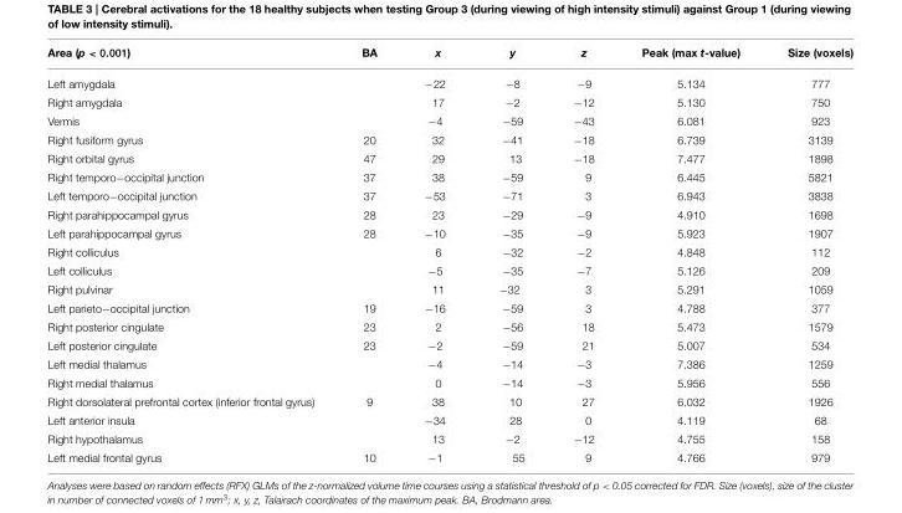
<table><thead><tr><td>Area (p &lt; 0.001)</td><td>BA</td><td>x</td><td>y</td><td>z</td><td>Peak (max t-value)</td><td>Size (voxels)</td></tr></thead><tbody><tr><td>Left amygdala</td><td></td><td>−22</td><td>−8</td><td>−9</td><td>5.134</td><td>777</td></tr><tr><td>Right amygdala</td><td></td><td>17</td><td>−2</td><td>−12</td><td>5.130</td><td>750</td></tr><tr><td>Vermis</td><td></td><td>−4</td><td>−59</td><td>−43</td><td>6.081</td><td>923</td></tr><tr><td>Right fusiform gyrus</td><td>20</td><td>32</td><td>−41</td><td>−18</td><td>6.739</td><td>3139</td></tr><tr><td>Right orbital gyrus</td><td>47</td><td>29</td><td>13</td><td>−18</td><td>7.477</td><td>1898</td></tr><tr><td>Right temporo−occipital junction</td><td>37</td><td>38</td><td>−59</td><td>9</td><td>6.445</td><td>5821</td></tr><tr><td>Left temporo−occipital junction</td><td>37</td><td>−53</td><td>−71</td><td>3</td><td>6.943</td><td>3838</td></tr><tr><td>Right parahippocampal gyrus</td><td>28</td><td>23</td><td>−29</td><td>−9</td><td>4.910</td><td>1698</td></tr><tr><td>Left parahippocampal gyrus</td><td>28</td><td>−10</td><td>−35</td><td>−9</td><td>5.923</td><td>1907</td></tr><tr><td>Right colliculus</td><td></td><td>6</td><td>−32</td><td>−2</td><td>4.848</td><td>112</td></tr><tr><td>Left colliculus</td><td></td><td>−5</td><td>−35</td><td>−7</td><td>5.126</td><td>209</td></tr><tr><td>Right pulvinar</td><td></td><td>11</td><td>−32</td><td>3</td><td>5.291</td><td>1059</td></tr><tr><td>Left parieto−occipital junction</td><td>19</td><td>−16</td><td>−59</td><td>3</td><td>4.788</td><td>377</td></tr><tr><td>Right posterior cingulate</td><td>23</td><td>2</td><td>−56</td><td>18</td><td>5.473</td><td>1579</td></tr><tr><td>Left posterior cingulate</td><td>23</td><td>−2</td><td>−59</td><td>21</td><td>5.007</td><td>534</td></tr><tr><td>Left medial thalamus</td><td></td><td>−4</td><td>−14</td><td>−3</td><td>7.386</td><td>1259</td></tr><tr><td>Right medial thalamus</td><td></td><td>0</td><td>−14</td><td>−3</td><td>5.956</td><td>556</td></tr><tr><td>Right dorsolateral prefrontal cortex (inferior frontal gyrus)</td><td>9</td><td>38</td><td>10</td><td>27</td><td>6.032</td><td>1926</td></tr><tr><td>Left anterior insula</td><td></td><td>−34</td><td>28</td><td>0</td><td>4.119</td><td>68</td></tr><tr><td>Right hypothalamus</td><td></td><td>13</td><td>−2</td><td>−12</td><td>4.755</td><td>158</td></tr><tr><td>Left medial frontal gyrus</td><td>10</td><td>−1</td><td>55</td><td>9</td><td>4.766</td><td>979</td></tr></tbody></table>